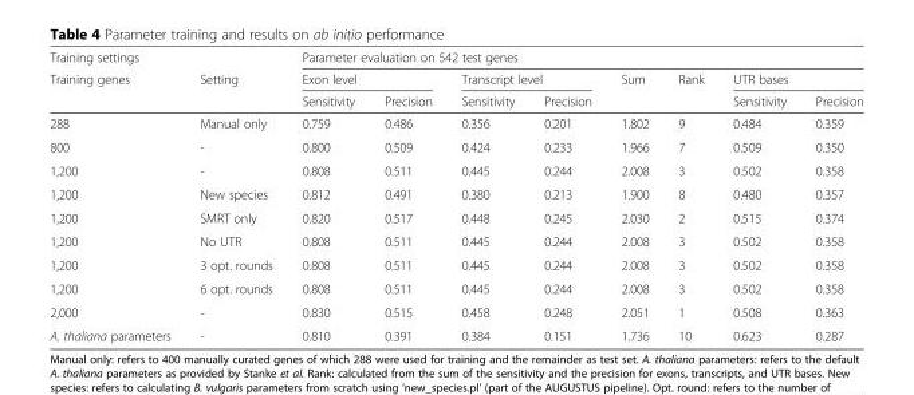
<table><thead><tr><td rowspan="3">Training settings Training genes</td><td rowspan="3">Setting</td><td colspan="8">Parameter evaluation on 542 test genes</td></tr><tr><td colspan="2">Exon level</td><td colspan="2">Transcript level</td><td rowspan="2">Sum</td><td rowspan="2">Rank</td><td colspan="2">UTR bases</td></tr><tr><td>Sensitivity</td><td>Precision</td><td>Sensitivity</td><td>Precision</td><td>Sensitivity</td><td>Precision</td></tr></thead><tbody><tr><td>288</td><td>Manual only</td><td>0.759</td><td>0.486</td><td>0.356</td><td>0.201</td><td>1.802</td><td>9</td><td>0.484</td><td>0.359</td></tr><tr><td>800</td><td>-</td><td>0.800</td><td>0.509</td><td>0.424</td><td>0.233</td><td>1.966</td><td>7</td><td>0.509</td><td>0.350</td></tr><tr><td>1,200</td><td>-</td><td>0.808</td><td>0.511</td><td>0.445</td><td>0.244</td><td>2.008</td><td>3</td><td>0.502</td><td>0.358</td></tr><tr><td>1,200</td><td>New species</td><td>0.812</td><td>0.491</td><td>0.380</td><td>0.213</td><td>1.900</td><td>8</td><td>0.480</td><td>0.357</td></tr><tr><td>1,200</td><td>SMRT only</td><td>0.820</td><td>0.517</td><td>0.448</td><td>0.245</td><td>2.030</td><td>2</td><td>0.515</td><td>0.374</td></tr><tr><td>1,200</td><td>No UTR</td><td>0.808</td><td>0.511</td><td>0.445</td><td>0.244</td><td>2.008</td><td>3</td><td>0.502</td><td>0.358</td></tr><tr><td>1,200</td><td>3 opt. rounds</td><td>0.808</td><td>0.511</td><td>0.445</td><td>0.244</td><td>2.008</td><td>3</td><td>0.502</td><td>0.358</td></tr><tr><td>1,200</td><td>6 opt. rounds</td><td>0.808</td><td>0.511</td><td>0.445</td><td>0.244</td><td>2.008</td><td>3</td><td>0.502</td><td>0.358</td></tr><tr><td>2,000</td><td>-</td><td>0.830</td><td>0.515</td><td>0.458</td><td>0.248</td><td>2.051</td><td>1</td><td>0.508</td><td>0.363</td></tr><tr><td>A. thaliana parameters</td><td>-</td><td>0.810</td><td>0.391</td><td>0.384</td><td>0.151</td><td>1.736</td><td>10</td><td>0.623</td><td>0.287</td></tr></tbody></table>